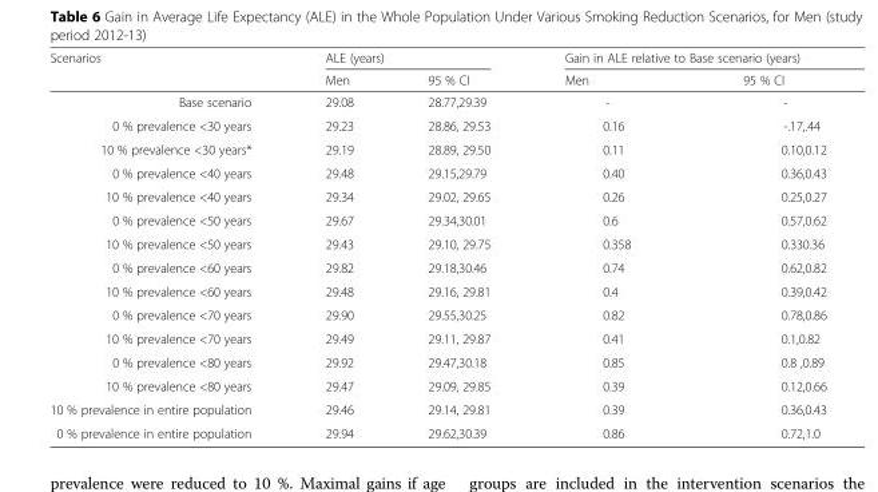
<table><thead><tr><td rowspan="2">Scenarios</td><td colspan="2">ALE (years)</td><td colspan="2">Gain in ALE relative to Base scenario (years)</td></tr><tr><td>Men</td><td>95 % CI</td><td>Men</td><td>95 % CI</td></tr></thead><tbody><tr><td>Base scenario</td><td>29.08</td><td>28.77,29.39</td><td>-</td><td>-</td></tr><tr><td>0 % prevalence &lt;30 years</td><td>29.23</td><td>28.86, 29.53</td><td>0.16</td><td>-.17,.44</td></tr><tr><td>10 % prevalence &lt;30 years*</td><td>29.19</td><td>28.89, 29.50</td><td>0.11</td><td>0.10,0.12</td></tr><tr><td>0 % prevalence &lt;40 years</td><td>29.48</td><td>29.15,29.79</td><td>0.40</td><td>0.36,0.43</td></tr><tr><td>10 % prevalence &lt;40 years</td><td>29.34</td><td>29.02, 29.65</td><td>0.26</td><td>0.25,0.27</td></tr><tr><td>0 % prevalence &lt;50 years</td><td>29.67</td><td>29.34,30.01</td><td>0.6</td><td>0.57,0.62</td></tr><tr><td>10 % prevalence &lt;50 years</td><td>29.43</td><td>29.10, 29.75</td><td>0.358</td><td>0.330.36</td></tr><tr><td>0 % prevalence &lt;60 years</td><td>29.82</td><td>29.18,30.46</td><td>0.74</td><td>0.62,0.82</td></tr><tr><td>10 % prevalence &lt;60 years</td><td>29.48</td><td>29.16, 29.81</td><td>0.4</td><td>0.39,0.42</td></tr><tr><td>0 % prevalence &lt;70 years</td><td>29.90</td><td>29.55,30.25</td><td>0.82</td><td>0.78,0.86</td></tr><tr><td>10 % prevalence &lt;70 years</td><td>29.49</td><td>29.11, 29.87</td><td>0.41</td><td>0.1,0.82</td></tr><tr><td>0 % prevalence &lt;80 years</td><td>29.92</td><td>29.47,30.18</td><td>0.85</td><td>0.8 ,0.89</td></tr><tr><td>10 % prevalence &lt;80 years</td><td>29.47</td><td>29.09, 29.85</td><td>0.39</td><td>0.12,0.66</td></tr><tr><td>10 % prevalence in entire population</td><td>29.46</td><td>29.14, 29.81</td><td>0.39</td><td>0.36,0.43</td></tr><tr><td>0 % prevalence in entire population</td><td>29.94</td><td>29.62,30.39</td><td>0.86</td><td>0.72,1.0</td></tr></tbody></table>